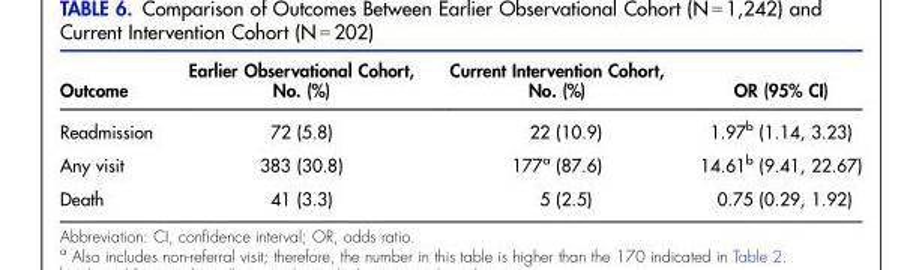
<table><thead><tr><td>Outcome</td><td>Earlier Observational Cohort, No. (%)</td><td>Current Intervention Cohort, No. (%)</td><td>OR (95% CI)</td></tr></thead><tbody><tr><td>Readmission</td><td>72 (5.8)</td><td>22 (10.9)</td><td>1.97<sup>b</sup> (1.14, 3.23)</td></tr><tr><td>Any visit</td><td>383 (30.8)</td><td>177<sup>a</sup> (87.6)</td><td>14.61<sup>b</sup> (9.41, 22.67)</td></tr><tr><td>Death</td><td>41 (3.3)</td><td>5 (2.5)</td><td>0.75 (0.29, 1.92)</td></tr></tbody></table>